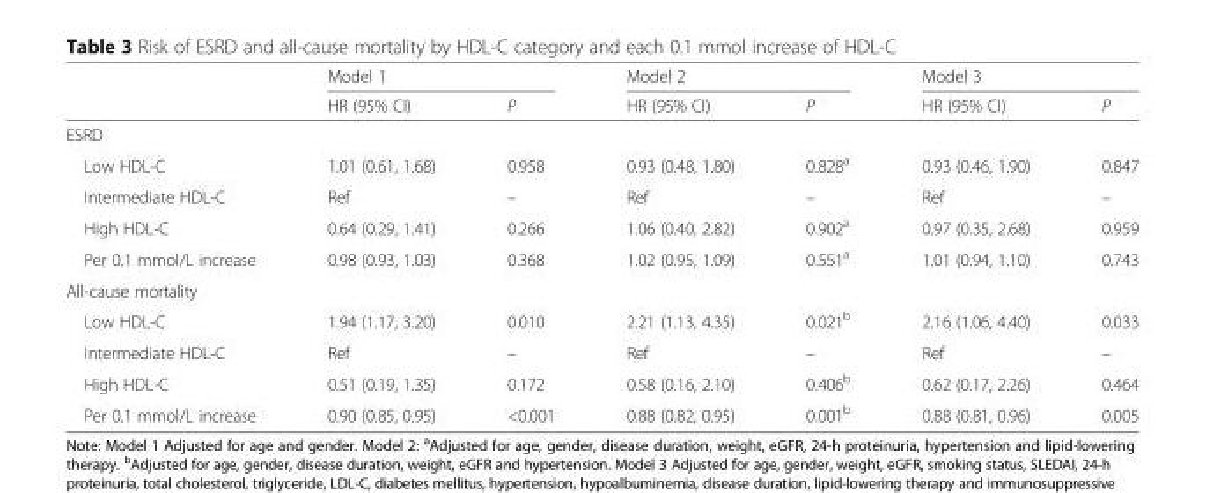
<table><thead><tr><td rowspan="2"></td><td colspan="2">Model 1</td><td colspan="2">Model 2</td><td colspan="2">Model 3</td></tr><tr><td>HR (95% CI)</td><td>P</td><td>HR (95% CI)</td><td>P</td><td>HR (95% CI)</td><td>P</td></tr></thead><tbody><tr><td colspan="7">ESRD</td></tr><tr><td>Low HDL-C</td><td>1.01 (0.61, 1.68)</td><td>0.958</td><td>0.93 (0.48, 1.80)</td><td>0.828<sup>a</sup></td><td>0.93 (0.46, 1.90)</td><td>0.847</td></tr><tr><td>Intermediate HDL-C</td><td>Ref</td><td>–</td><td>Ref</td><td>–</td><td>Ref</td><td>–</td></tr><tr><td>High HDL-C</td><td>0.64 (0.29, 1.41)</td><td>0.266</td><td>1.06 (0.40, 2.82)</td><td>0.902<sup>a</sup></td><td>0.97 (0.35, 2.68)</td><td>0.959</td></tr><tr><td>Per 0.1 mmol/L increase</td><td>0.98 (0.93, 1.03)</td><td>0.368</td><td>1.02 (0.95, 1.09)</td><td>0.551<sup>a</sup></td><td>1.01 (0.94, 1.10)</td><td>0.743</td></tr><tr><td colspan="7">All-cause mortality</td></tr><tr><td>Low HDL-C</td><td>1.94 (1.17, 3.20)</td><td>0.010</td><td>2.21 (1.13, 4.35)</td><td>0.021<sup>b</sup></td><td>2.16 (1.06, 4.40)</td><td>0.033</td></tr><tr><td>Intermediate HDL-C</td><td>Ref</td><td>–</td><td>Ref</td><td>–</td><td>Ref</td><td>–</td></tr><tr><td>High HDL-C</td><td>0.51 (0.19, 1.35)</td><td>0.172</td><td>0.58 (0.16, 2.10)</td><td>0.406<sup>b</sup></td><td>0.62 (0.17, 2.26)</td><td>0.464</td></tr><tr><td>Per 0.1 mmol/L increase</td><td>0.90 (0.85, 0.95)</td><td>&lt;0.001</td><td>0.88 (0.82, 0.95)</td><td>0.001<sup>b</sup></td><td>0.88 (0.81, 0.96)</td><td>0.005</td></tr></tbody></table>